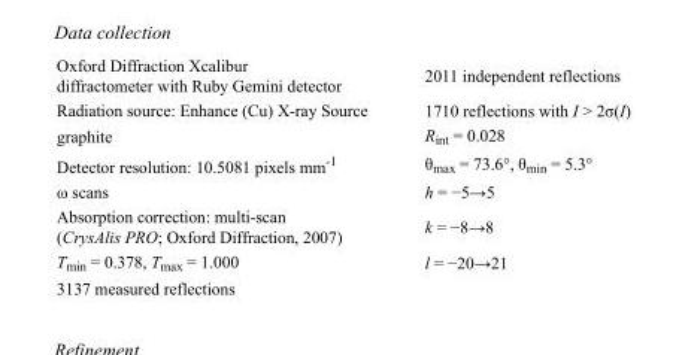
<table><tbody><tr><td>Oxford Diffraction Xcalibur diffractometer with Ruby Gemini detector</td><td>2011 independent reflections</td></tr><tr><td>Radiation source: Enhance (Cu) X-ray Source</td><td>1710 reflections with I &gt; 2σ(I)</td></tr><tr><td>graphite</td><td>R<sub>int</sub> = 0.028</td></tr><tr><td>Detector resolution: 10.5081 pixels mm<sup>-1</sup></td><td>θ<sub>max</sub> = 73.6°, θ<sub>min</sub> = 5.3°</td></tr><tr><td>ω scans</td><td>h = −5→5</td></tr><tr><td>Absorption correction: multi-scan (CrysAlis PRO; Oxford Diffraction, 2007)</td><td>k = −8→8</td></tr><tr><td>T<sub>min</sub> = 0.378, T<sub>max</sub> = 1.000</td><td>l = −20→21</td></tr><tr><td>3137 measured reflections</td><td></td></tr></tbody></table>